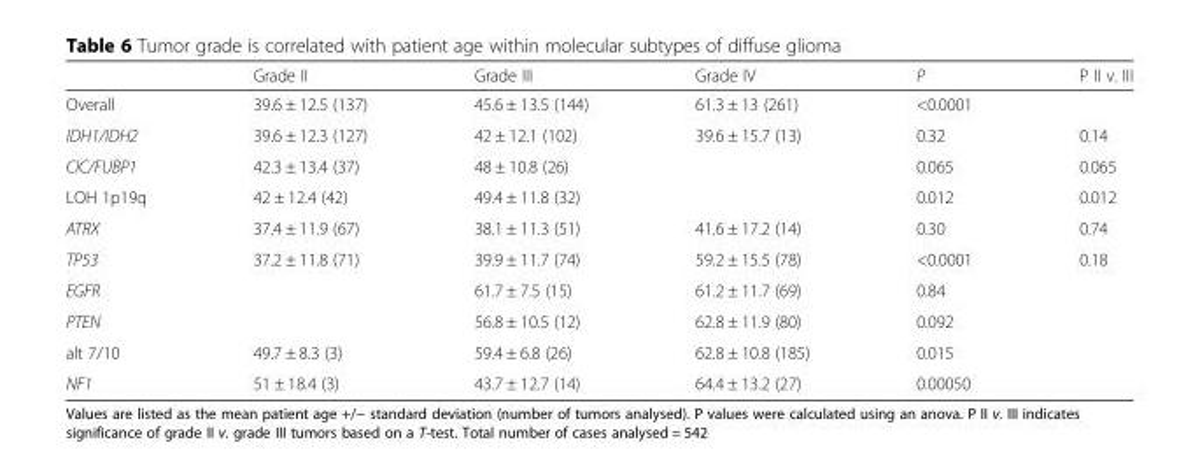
<table><thead><tr><td></td><td>Grade II</td><td>Grade III</td><td>Grade IV</td><td>P</td><td>P II v. III</td></tr></thead><tbody><tr><td>Overall</td><td>39.6 ± 12.5 (137)</td><td>45.6 ± 13.5 (144)</td><td>61.3 ± 13 (261)</td><td>&lt;0.0001</td><td></td></tr><tr><td>IDH1/IDH2</td><td>39.6 ± 12.3 (127)</td><td>42 ± 12.1 (102)</td><td>39.6 ± 15.7 (13)</td><td>0.32</td><td>0.14</td></tr><tr><td>CIC/FUBP1</td><td>42.3 ± 13.4 (37)</td><td>48 ± 10.8 (26)</td><td></td><td>0.065</td><td>0.065</td></tr><tr><td>LOH 1p19q</td><td>42 ± 12.4 (42)</td><td>49.4 ± 11.8 (32)</td><td></td><td>0.012</td><td>0.012</td></tr><tr><td>ATRX</td><td>37.4 ± 11.9 (67)</td><td>38.1 ± 11.3 (51)</td><td>41.6 ± 17.2 (14)</td><td>0.30</td><td>0.74</td></tr><tr><td>TP53</td><td>37.2 ± 11.8 (71)</td><td>39.9 ± 11.7 (74)</td><td>59.2 ± 15.5 (78)</td><td>&lt;0.0001</td><td>0.18</td></tr><tr><td>EGFR</td><td></td><td>61.7 ± 7.5 (15)</td><td>61.2 ± 11.7 (69)</td><td>0.84</td><td></td></tr><tr><td>PTEN</td><td></td><td>56.8 ± 10.5 (12)</td><td>62.8 ± 11.9 (80)</td><td>0.092</td><td></td></tr><tr><td>alt 7/10</td><td>49.7 ± 8.3 (3)</td><td>59.4 ± 6.8 (26)</td><td>62.8 ± 10.8 (185)</td><td>0.015</td><td></td></tr><tr><td>NF1</td><td>51 ± 18.4 (3)</td><td>43.7 ± 12.7 (14)</td><td>64.4 ± 13.2 (27)</td><td>0.00050</td><td></td></tr></tbody></table>